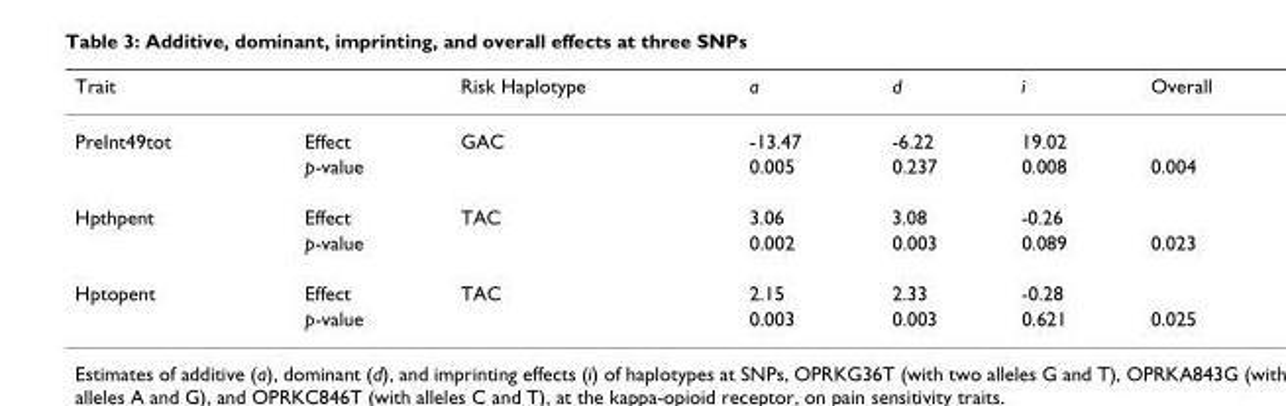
<table><thead><tr><td>Trait</td><td></td><td>Risk Haplotype</td><td>a</td><td>d</td><td>i</td><td>Overall</td></tr></thead><tbody><tr><td rowspan="2">PreInt49tot</td><td>Effect</td><td>GAC</td><td>-13.47</td><td>-6.22</td><td>19.02</td><td></td></tr><tr><td>p-value</td><td></td><td>0.005</td><td>0.237</td><td>0.008</td><td>0.004</td></tr><tr><td rowspan="2">Hpthpent</td><td>Effect</td><td>TAC</td><td>3.06</td><td>3.08</td><td>-0.26</td><td></td></tr><tr><td>p-value</td><td></td><td>0.002</td><td>0.003</td><td>0.089</td><td>0.023</td></tr><tr><td rowspan="2">Hptopent</td><td>Effect</td><td>TAC</td><td>2.15</td><td>2.33</td><td>-0.28</td><td></td></tr><tr><td>p-value</td><td></td><td>0.003</td><td>0.003</td><td>0.621</td><td>0.025</td></tr></tbody></table>